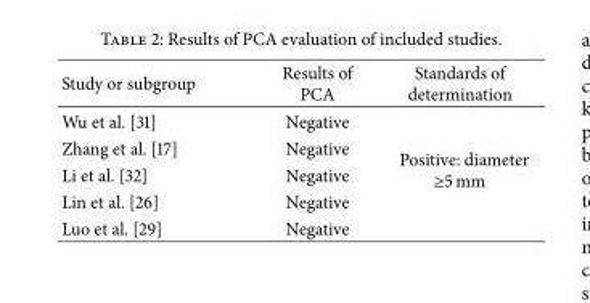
<table><thead><tr><td>Study or subgroup</td><td>Results of PCA</td><td>Standards of determination</td></tr></thead><tbody><tr><td>Wu et al. [31]</td><td>Negative</td><td rowspan="5">Positive: diameter ≥5 mm</td></tr><tr><td>Zhang et al. [17]</td><td>Negative</td></tr><tr><td>Li et al. [32]</td><td>Negative</td></tr><tr><td>Lin et al. [26]</td><td>Negative</td></tr><tr><td>Luo et al. [29]</td><td>Negative</td></tr></tbody></table>